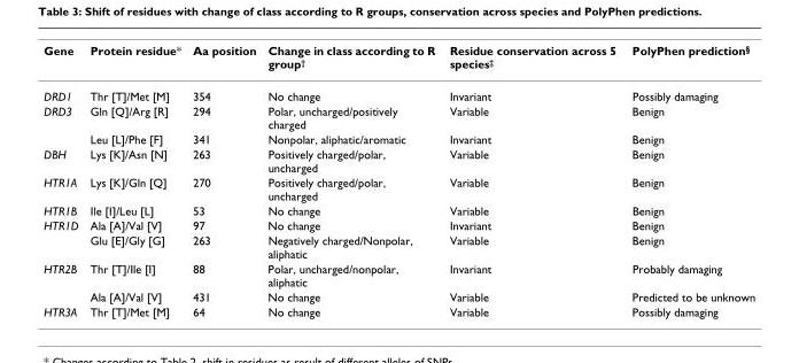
<table><tbody><tr><td>Gene</td><td>Protein residue*</td><td>Aa position</td><td>Change in class according to R group<sup>†</sup></td><td>Residue conservation across 5 species<sup>‡</sup></td><td>PolyPhen prediction<sup>§</sup></td></tr><tr><td>DRD1</td><td>Thr [T]/Met [M]</td><td>354</td><td>No change</td><td>Invariant</td><td>Possibly damaging</td></tr><tr><td rowspan="2">DRD3</td><td>Gln [Q]/Arg [R]</td><td>294</td><td>Polar, uncharged/positively charged</td><td>Variable</td><td>Benign</td></tr><tr><td>Leu [L]/Phe [F]</td><td>341</td><td>Nonpolar, aliphatic/aromatic</td><td>Invariant</td><td>Benign</td></tr><tr><td>DBH</td><td>Lys [K]/Asn [N]</td><td>263</td><td>Positively charged/polar, uncharged</td><td>Variable</td><td>Benign</td></tr><tr><td>HTR1A</td><td>Lys [K]/Gln [Q]</td><td>270</td><td>Positively charged/polar, uncharged</td><td>Variable</td><td>Benign</td></tr><tr><td>HTR1B</td><td>Ile [I]/Leu [L]</td><td>53</td><td>No change</td><td>Variable</td><td>Benign</td></tr><tr><td rowspan="2">HTR1D</td><td>Ala [A]/Val [V]</td><td>97</td><td>No change</td><td>Invariant</td><td>Benign</td></tr><tr><td>Glu [E]/Gly [G]</td><td>263</td><td>Negatively charged/Nonpolar, aliphatic</td><td>Variable</td><td>Benign</td></tr><tr><td rowspan="2">HTR2B</td><td>Thr [T]/Ile [I]</td><td>88</td><td>Polar, uncharged/nonpolar, aliphatic</td><td>Invariant</td><td>Probably damaging</td></tr><tr><td>Ala [A]/Val [V]</td><td>431</td><td>No change</td><td>Variable</td><td>Predicted to be unknown</td></tr><tr><td>HTR3A</td><td>Thr [T]/Met [M]</td><td>64</td><td>No change</td><td>Variable</td><td>Possibly damaging</td></tr></tbody></table>